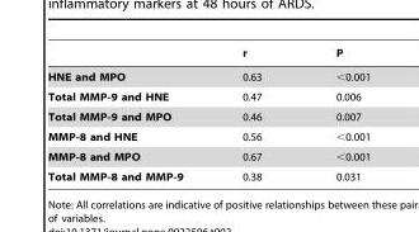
<table><thead><tr><td></td><td>r</td><td>P</td></tr></thead><tbody><tr><td>HNE and MPO</td><td>0.63</td><td>&lt;0.001</td></tr><tr><td>Total MMP-9 and HNE</td><td>0.47</td><td>0.006</td></tr><tr><td>Total MMP-9 and MPO</td><td>0.46</td><td>0.007</td></tr><tr><td>MMP-8 and HNE</td><td>0.56</td><td>&lt;0.001</td></tr><tr><td>MMP-8 and MPO</td><td>0.67</td><td>&lt;0.001</td></tr><tr><td>Total MMP-8 and MMP-9</td><td>0.38</td><td>0.031</td></tr></tbody></table>